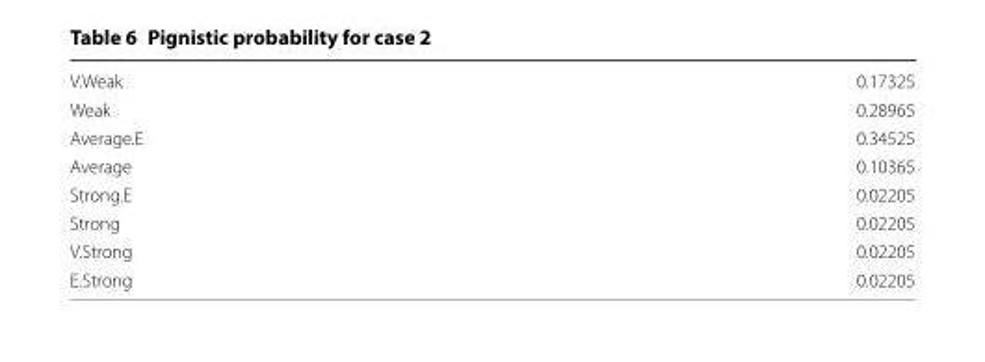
<table><tbody><tr><td>V.Weak</td><td>0.17325</td></tr><tr><td>Weak</td><td>0.28965</td></tr><tr><td>Average.E</td><td>0.34525</td></tr><tr><td>Average</td><td>0.10365</td></tr><tr><td>Strong.E</td><td>0.02205</td></tr><tr><td>Strong</td><td>0.02205</td></tr><tr><td>V.Strong</td><td>0.02205</td></tr><tr><td>E.Strong</td><td>0.02205</td></tr></tbody></table>